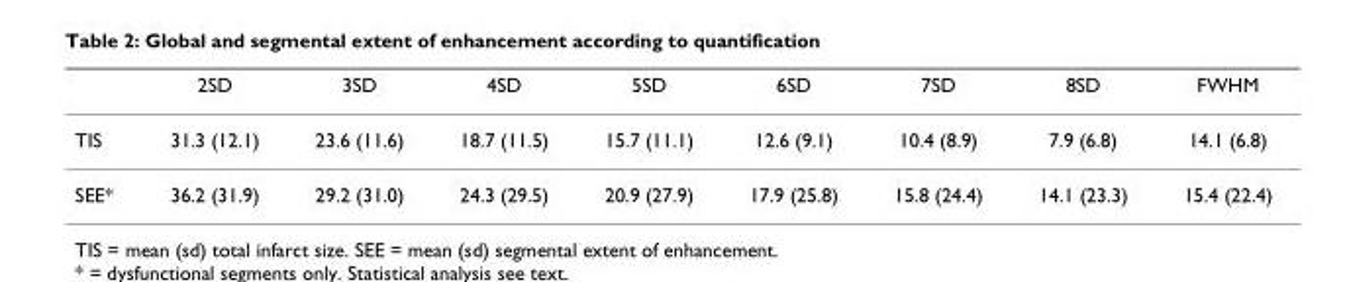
<table><thead><tr><td></td><td>2SD</td><td>3SD</td><td>4SD</td><td>5SD</td><td>6SD</td><td>7SD</td><td>8SD</td><td>FWHM</td></tr></thead><tbody><tr><td>TIS</td><td>31.3 (12.1)</td><td>23.6 (11.6)</td><td>18.7 (11.5)</td><td>15.7 (11.1)</td><td>12.6 (9.1)</td><td>10.4 (8.9)</td><td>7.9 (6.8)</td><td>14.1 (6.8)</td></tr><tr><td>SEE*</td><td>36.2 (31.9)</td><td>29.2 (31.0)</td><td>24.3 (29.5)</td><td>20.9 (27.9)</td><td>17.9 (25.8)</td><td>15.8 (24.4)</td><td>14.1 (23.3)</td><td>15.4 (22.4)</td></tr></tbody></table>